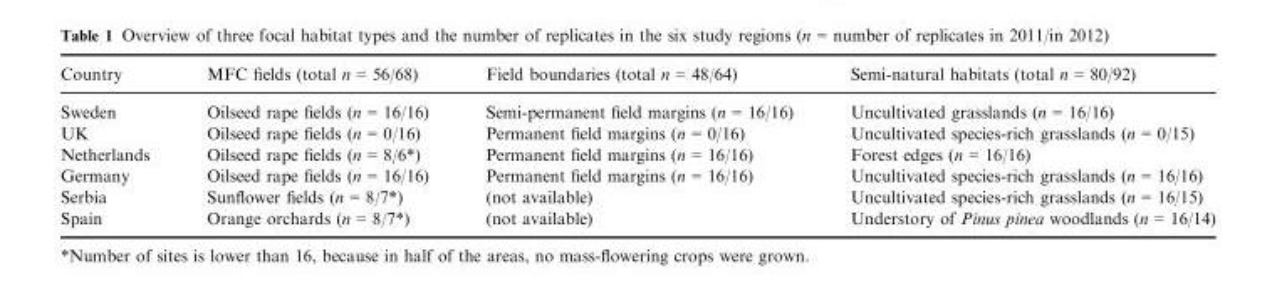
<table><thead><tr><td>Country</td><td>MFC fields (total n = 56/68)</td><td>Field boundaries (total n = 48/64)</td><td>Semi-natural habitats (total n = 80/92)</td></tr></thead><tbody><tr><td>Sweden</td><td>Oilseed rape fields (n = 16/16)</td><td>Semi-permanent field margins (n = 16/16)</td><td>Uncultivated grasslands (n = 16/16)</td></tr><tr><td>UK</td><td>Oilseed rape fields (n = 0/16)</td><td>Permanent field margins (n = 0/16)</td><td>Uncultivated species-rich grasslands (n = 0/15)</td></tr><tr><td>Netherlands</td><td>Oilseed rape fields (n = 8/6*)</td><td>Permanent field margins (n = 16/16)</td><td>Forest edges (n = 16/16)</td></tr><tr><td>Germany</td><td>Oilseed rape fields (n = 16/16)</td><td>Permanent field margins (n = 16/16)</td><td>Uncultivated species-rich grasslands (n = 16/16)</td></tr><tr><td>Serbia</td><td>Sunflower fields (n = 8/7*)</td><td>(not available)</td><td>Uncultivated species-rich grasslands (n = 16/15)</td></tr><tr><td>Spain</td><td>Orange orchards (n = 8/7*)</td><td>(not available)</td><td>Understory of Pinus pinea woodlands (n = 16/14)</td></tr></tbody></table>